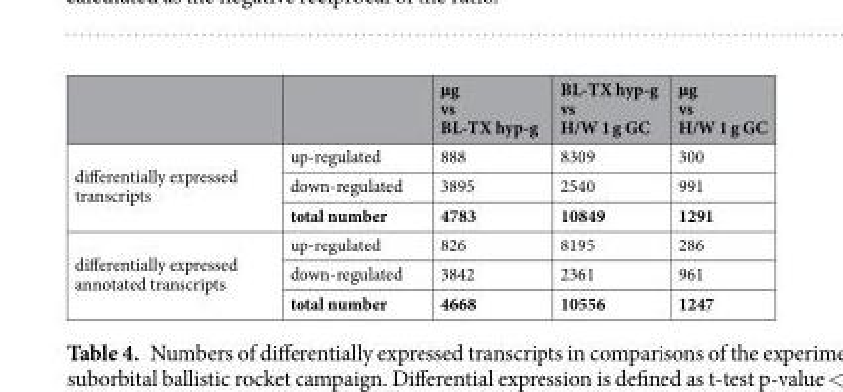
<table><thead><tr><td></td><td></td><td>µg vs BL-TX hyp-g</td><td>BL-TX hyp-g vs H/W 1 g GC</td><td>µg vs H/W 1 g GC</td></tr></thead><tbody><tr><td rowspan="3">differentially expressed transcripts</td><td>up-regulated</td><td>888</td><td>8309</td><td>300</td></tr><tr><td>down-regulated</td><td>3895</td><td>2540</td><td>991</td></tr><tr><td>total number</td><td>4783</td><td>10849</td><td>1291</td></tr><tr><td rowspan="3">differentially expressed annotated transcripts</td><td>up-regulated</td><td>826</td><td>8195</td><td>286</td></tr><tr><td>down-regulated</td><td>3842</td><td>2361</td><td>961</td></tr><tr><td>total number</td><td>4668</td><td>10556</td><td>1247</td></tr></tbody></table>